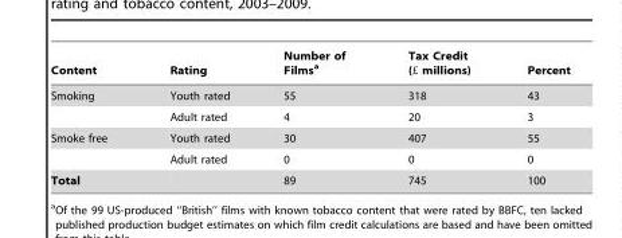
<table><thead><tr><td>Content</td><td>Rating</td><td>Number of Films<sup>a</sup></td><td>Tax Credit (£ millions)</td><td>Percent</td></tr></thead><tbody><tr><td rowspan="2">Smoking</td><td>Youth rated</td><td>55</td><td>318</td><td>43</td></tr><tr><td>Adult rated</td><td>4</td><td>20</td><td>3</td></tr><tr><td rowspan="2">Smoke free</td><td>Youth rated</td><td>30</td><td>407</td><td>55</td></tr><tr><td>Adult rated</td><td>0</td><td>0</td><td>0</td></tr><tr><td>Total</td><td></td><td>89</td><td>745</td><td>100</td></tr></tbody></table>